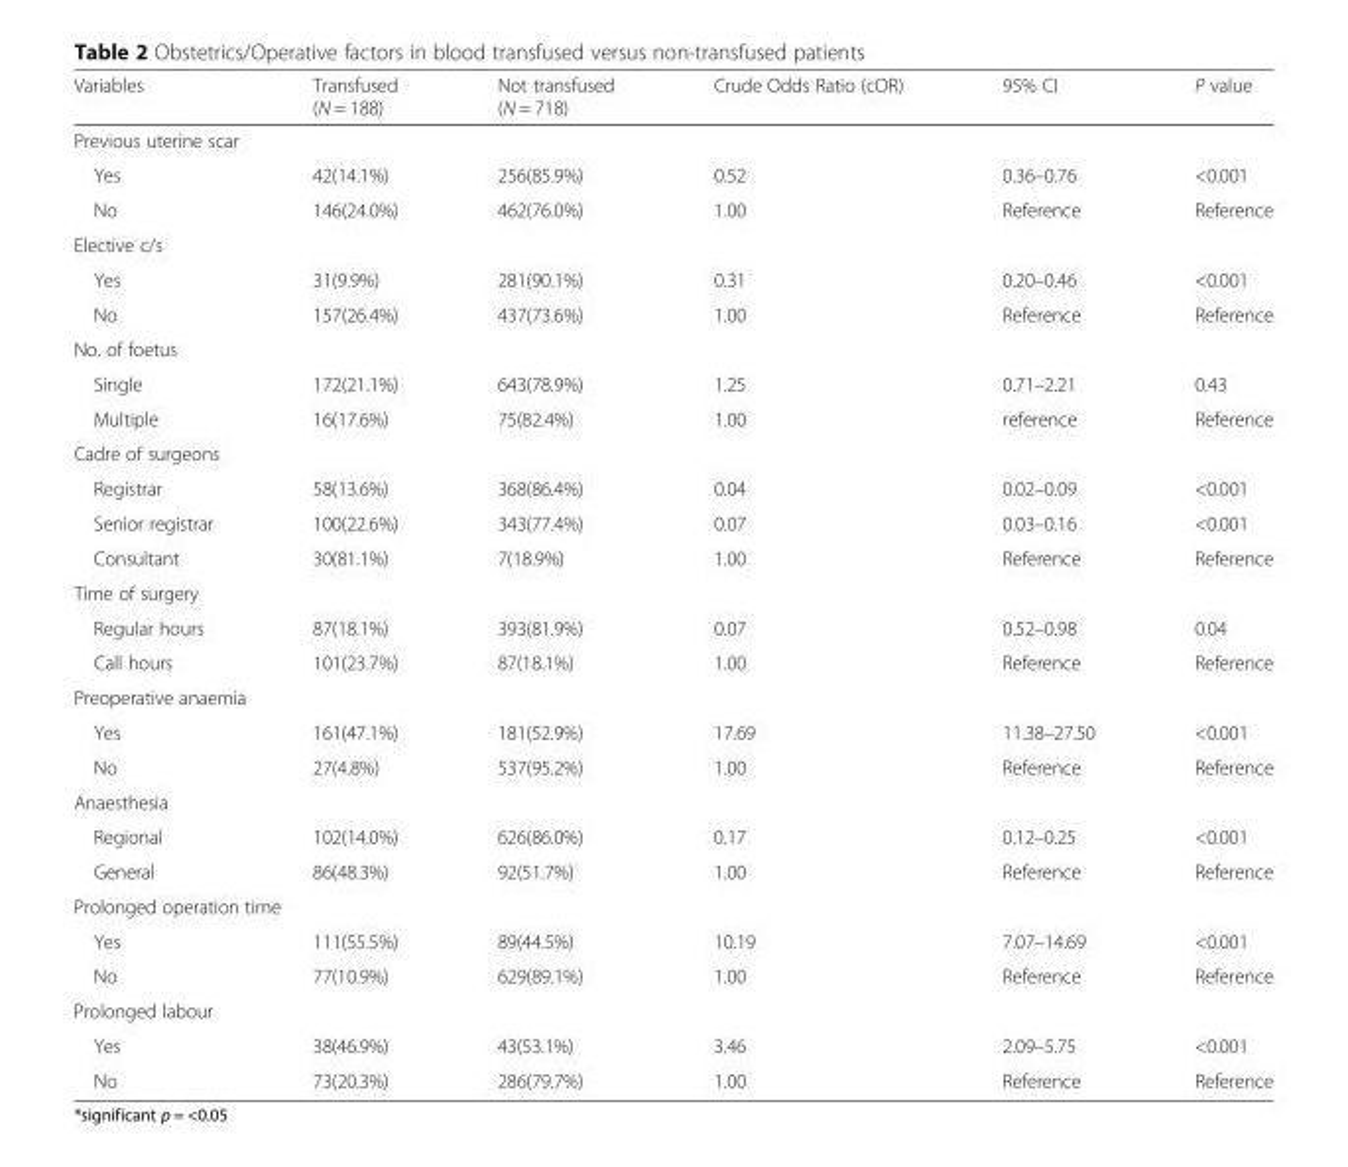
<table><thead><tr><td>Variables</td><td>Transfused (N = 188)</td><td>Not transfused (N = 718)</td><td>Crude Odds Ratio (cOR)</td><td>95% CI</td><td>P value</td></tr></thead><tbody><tr><td colspan="6">Previous uterine scar</td></tr><tr><td>Yes</td><td>42(14.1%)</td><td>256(85.9%)</td><td>0.52</td><td>0.36–0.76</td><td>&lt;0.001</td></tr><tr><td>No</td><td>146(24.0%)</td><td>462(76.0%)</td><td>1.00</td><td>Reference</td><td>Reference</td></tr><tr><td colspan="6">Elective c/s</td></tr><tr><td>Yes</td><td>31(9.9%)</td><td>281(90.1%)</td><td>0.31</td><td>0.20–0.46</td><td>&lt;0.001</td></tr><tr><td>No</td><td>157(26.4%)</td><td>437(73.6%)</td><td>1.00</td><td>Reference</td><td>Reference</td></tr><tr><td colspan="6">No. of foetus</td></tr><tr><td>Single</td><td>172(21.1%)</td><td>643(78.9%)</td><td>1.25</td><td>0.71–2.21</td><td>0.43</td></tr><tr><td>Multiple</td><td>16(17.6%)</td><td>75(82.4%)</td><td>1.00</td><td>reference</td><td>Reference</td></tr><tr><td colspan="6">Cadre of surgeons</td></tr><tr><td>Registrar</td><td>58(13.6%)</td><td>368(86.4%)</td><td>0.04</td><td>0.02–0.09</td><td>&lt;0.001</td></tr><tr><td>Senior registrar</td><td>100(22.6%)</td><td>343(77.4%)</td><td>0.07</td><td>0.03–0.16</td><td>&lt;0.001</td></tr><tr><td>Consultant</td><td>30(81.1%)</td><td>7(18.9%)</td><td>1.00</td><td>Reference</td><td>Reference</td></tr><tr><td colspan="6">Time of surgery</td></tr><tr><td>Regular hours</td><td>87(18.1%)</td><td>393(81.9%)</td><td>0.07</td><td>0.52–0.98</td><td>0.04</td></tr><tr><td>Call hours</td><td>101(23.7%)</td><td>87(18.1%)</td><td>1.00</td><td>Reference</td><td>Reference</td></tr><tr><td colspan="6">Preoperative anaemia</td></tr><tr><td>Yes</td><td>161(47.1%)</td><td>181(52.9%)</td><td>17.69</td><td>11.38–27.50</td><td>&lt;0.001</td></tr><tr><td>No</td><td>27(4.8%)</td><td>537(95.2%)</td><td>1.00</td><td>Reference</td><td>Reference</td></tr><tr><td colspan="6">Anaesthesia</td></tr><tr><td>Regional</td><td>102(14.0%)</td><td>626(86.0%)</td><td>0.17</td><td>0.12–0.25</td><td>&lt;0.001</td></tr><tr><td>General</td><td>86(48.3%)</td><td>92(51.7%)</td><td>1.00</td><td>Reference</td><td>Reference</td></tr><tr><td colspan="6">Prolonged operation time</td></tr><tr><td>Yes</td><td>111(55.5%)</td><td>89(44.5%)</td><td>10.19</td><td>7.07–14.69</td><td>&lt;0.001</td></tr><tr><td>No</td><td>77(10.9%)</td><td>629(89.1%)</td><td>1.00</td><td>Reference</td><td>Reference</td></tr><tr><td colspan="6">Prolonged labour</td></tr><tr><td>Yes</td><td>38(46.9%)</td><td>43(53.1%)</td><td>3.46</td><td>2.09–5.75</td><td>&lt;0.001</td></tr><tr><td>No</td><td>73(20.3%)</td><td>286(79.7%)</td><td>1.00</td><td>Reference</td><td>Reference</td></tr></tbody></table>